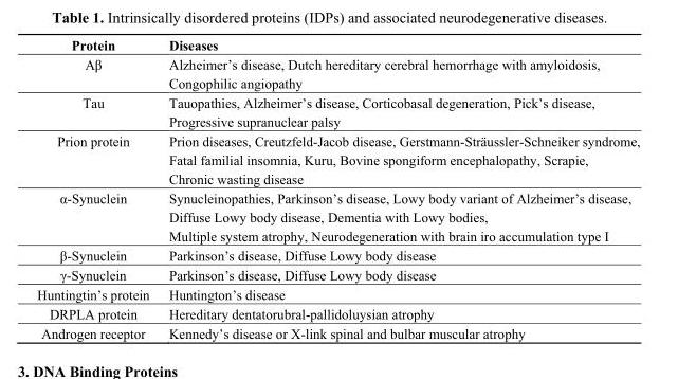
<table><thead><tr><td>Protein</td><td>Diseases</td></tr></thead><tbody><tr><td>Aβ</td><td>Alzheimer’s disease, Dutch hereditary cerebral hemorrhage with amyloidosis, Congophilic angiopathy</td></tr><tr><td>Tau</td><td>Tauopathies, Alzheimer’s disease, Corticobasal degeneration, Pick’s disease, Progressive supranuclear palsy</td></tr><tr><td>Prion protein</td><td>Prion diseases, Creutzfeld-Jacob disease, Gerstmann-Strӓussler-Schneiker syndrome, Fatal familial insomnia, Kuru, Bovine spongiform encephalopathy, Scrapie, Chronic wasting disease</td></tr><tr><td>α-Synuclein</td><td>Synucleinopathies, Parkinson’s disease, Lowy body variant of Alzheimer’s disease, Diffuse Lowy body disease, Dementia with Lowy bodies, Multiple system atrophy, Neurodegeneration with brain iro accumulation type I</td></tr><tr><td>β-Synuclein</td><td>Parkinson’s disease, Diffuse Lowy body disease</td></tr><tr><td>γ-Synuclein</td><td>Parkinson’s disease, Diffuse Lowy body disease</td></tr><tr><td>Huntingtin’s protein</td><td>Huntington’s disease</td></tr><tr><td>DRPLA protein</td><td>Hereditary dentatorubral-pallidoluysian atrophy</td></tr><tr><td>Androgen receptor</td><td>Kennedy’s disease or X-link spinal and bulbar muscular atrophy</td></tr></tbody></table>